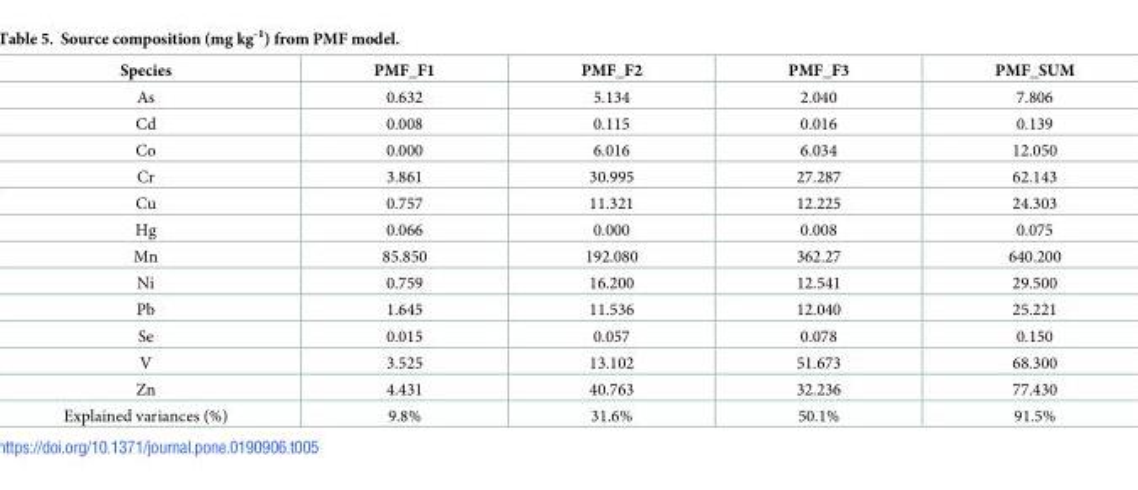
<table><thead><tr><td>Species</td><td>PMF_F1</td><td>PMF_F2</td><td>PMF_F3</td><td>PMF_SUM</td></tr></thead><tbody><tr><td>As</td><td>0.632</td><td>5.134</td><td>2.040</td><td>7.806</td></tr><tr><td>Cd</td><td>0.008</td><td>0.115</td><td>0.016</td><td>0.139</td></tr><tr><td>Co</td><td>0.000</td><td>6.016</td><td>6.034</td><td>12.050</td></tr><tr><td>Cr</td><td>3.861</td><td>30.995</td><td>27.287</td><td>62.143</td></tr><tr><td>Cu</td><td>0.757</td><td>11.321</td><td>12.225</td><td>24.303</td></tr><tr><td>Hg</td><td>0.066</td><td>0.000</td><td>0.008</td><td>0.075</td></tr><tr><td>Mn</td><td>85.850</td><td>192.080</td><td>362.27</td><td>640.200</td></tr><tr><td>Ni</td><td>0.759</td><td>16.200</td><td>12.541</td><td>29.500</td></tr><tr><td>Pb</td><td>1.645</td><td>11.536</td><td>12.040</td><td>25.221</td></tr><tr><td>Se</td><td>0.015</td><td>0.057</td><td>0.078</td><td>0.150</td></tr><tr><td>V</td><td>3.525</td><td>13.102</td><td>51.673</td><td>68.300</td></tr><tr><td>Zn</td><td>4.431</td><td>40.763</td><td>32.236</td><td>77.430</td></tr><tr><td>Explained variances (%)</td><td>9.8%</td><td>31.6%</td><td>50.1%</td><td>91.5%</td></tr></tbody></table>